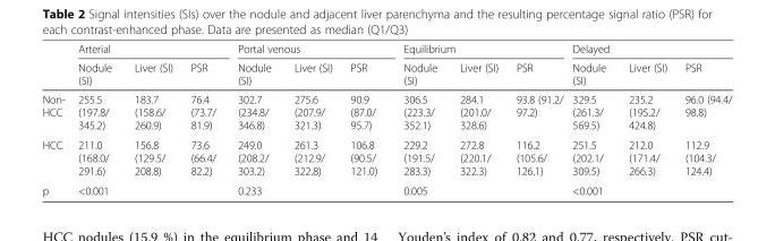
<table><thead><tr><td rowspan="2"></td><td colspan="3">Arterial</td><td colspan="3">Portal venous</td><td colspan="3">Equilibrium</td><td colspan="3">Delayed</td></tr><tr><td>Nodule (SI)</td><td>Liver (SI)</td><td>PSR</td><td>Nodule (SI)</td><td>Liver (SI)</td><td>PSR</td><td>Nodule (SI)</td><td>Liver (SI)</td><td>PSR</td><td>Nodule (SI)</td><td>Liver (SI)</td><td>PSR</td></tr></thead><tbody><tr><td>Non- HCC</td><td>255.5 (197.8/ 345.2)</td><td>183.7 (158.6/ 260.9)</td><td>76.4 (73.7/ 81.9)</td><td>302.7 (234.8/ 346.8)</td><td>275.6 (207.9/ 321.3)</td><td>90.9 (87.0/ 95.7)</td><td>306.5 (223.3/ 352.1)</td><td>284.1 (201.0/ 328.6)</td><td>93.8 (91.2/ 97.2)</td><td>329.5 (261.3/ 569.5)</td><td>235.2 (195.2/ 424.8)</td><td>96.0 (94.4/ 98.8)</td></tr><tr><td>HCC</td><td>211.0 (168.0/ 291.6)</td><td>156.8 (129.5/ 208.8)</td><td>73.6 (66.4/ 82.2)</td><td>249.0 (208.2/ 303.2)</td><td>261.3 (212.9/ 322.8)</td><td>106.8 (90.5/ 121.0)</td><td>229.2 (191.5/ 283.3)</td><td>272.8 (220.1/ 322.3)</td><td>116.2 (105.6/ 126.1)</td><td>251.5 (202.1/ 309.5)</td><td>212.0 (171.4/ 266.3)</td><td>112.9 (104.3/ 124.4)</td></tr><tr><td>p</td><td colspan="3">&lt;0.001</td><td colspan="3">0.233</td><td colspan="3">0.005</td><td colspan="3">&lt;0.001</td></tr></tbody></table>